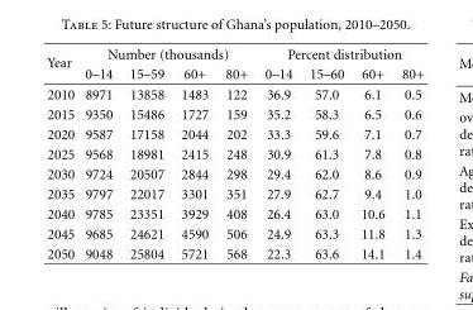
<table><thead><tr><td rowspan="2">Year</td><td colspan="4">Number (thousands)</td><td colspan="4">Percent distribution</td></tr><tr><td>0–14</td><td>15–59</td><td>60+</td><td>80+</td><td>0–14</td><td>15–60</td><td>60+</td><td>80+</td></tr></thead><tbody><tr><td>2010</td><td>8971</td><td>13858</td><td>1483</td><td>122</td><td>36.9</td><td>57.0</td><td>6.1</td><td>0.5</td></tr><tr><td>2015</td><td>9350</td><td>15486</td><td>1727</td><td>159</td><td>35.2</td><td>58.3</td><td>6.5</td><td>0.6</td></tr><tr><td>2020</td><td>9587</td><td>17158</td><td>2044</td><td>202</td><td>33.3</td><td>59.6</td><td>7.1</td><td>0.7</td></tr><tr><td>2025</td><td>9568</td><td>18981</td><td>2415</td><td>248</td><td>30.9</td><td>61.3</td><td>7.8</td><td>0.8</td></tr><tr><td>2030</td><td>9724</td><td>20507</td><td>2844</td><td>298</td><td>29.4</td><td>62.0</td><td>8.6</td><td>0.9</td></tr><tr><td>2035</td><td>9797</td><td>22017</td><td>3301</td><td>351</td><td>27.9</td><td>62.7</td><td>9.4</td><td>1.0</td></tr><tr><td>2040</td><td>9785</td><td>23351</td><td>3929</td><td>408</td><td>26.4</td><td>63.0</td><td>10.6</td><td>1.1</td></tr><tr><td>2045</td><td>9685</td><td>24621</td><td>4590</td><td>506</td><td>24.9</td><td>63.3</td><td>11.8</td><td>1.3</td></tr><tr><td>2050</td><td>9048</td><td>25804</td><td>5721</td><td>568</td><td>22.3</td><td>63.6</td><td>14.1</td><td>1.4</td></tr></tbody></table>